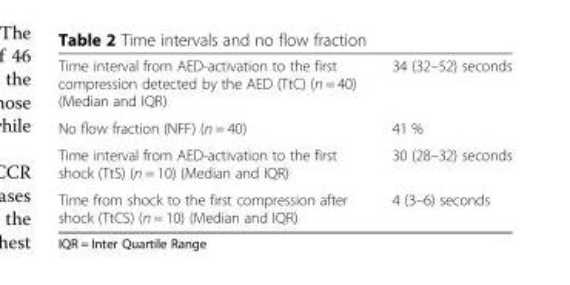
<table><tbody><tr><td>Time interval from AED-activation to the first compression detected by the AED (TtC) (n = 40) (Median and IQR)</td><td>34 (32–52) seconds</td></tr><tr><td>No flow fraction (NFF) (n = 40)</td><td>41 %</td></tr><tr><td>Time interval from AED-activation to the first shock (TtS) (n = 10) (Median and IQR)</td><td>30 (28–32) seconds</td></tr><tr><td>Time from shock to the first compression after shock (TtCS) (n = 10) (Median and IQR)</td><td>4 (3–6) seconds</td></tr></tbody></table>